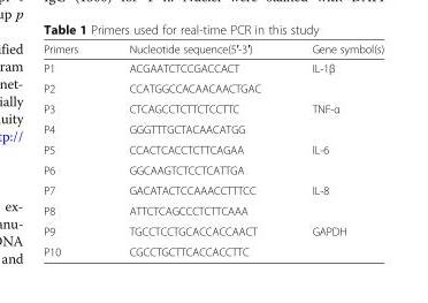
<table><thead><tr><td>Primers</td><td>Nucleotide sequence(5′-3′)</td><td>Gene symbol(s)</td></tr></thead><tbody><tr><td>P1</td><td>ACGAATCTCCGACCACT</td><td rowspan="2">IL-1β</td></tr><tr><td>P2</td><td>CCATGGCCACAACAACTGAC</td></tr><tr><td>P3</td><td>CTCAGCCTCTTCTCCTTC</td><td rowspan="2">TNF-α</td></tr><tr><td>P4</td><td>GGGTTTGCTACAACATGG</td></tr><tr><td>P5</td><td>CCACTCACCTCTTCAGAA</td><td rowspan="2">IL-6</td></tr><tr><td>P6</td><td>GGCAAGTCTCCTCATTGA</td></tr><tr><td>P7</td><td>GACATACTCCAAACCTTTCC</td><td rowspan="2">IL-8</td></tr><tr><td>P8</td><td>ATTCTCAGCCCTCTTCAAA</td></tr><tr><td>P9</td><td>TGCCTCCTGCACCACCAACT</td><td rowspan="2">GAPDH</td></tr><tr><td>P10</td><td>CGCCTGCTTCACCACCTTC</td></tr></tbody></table>